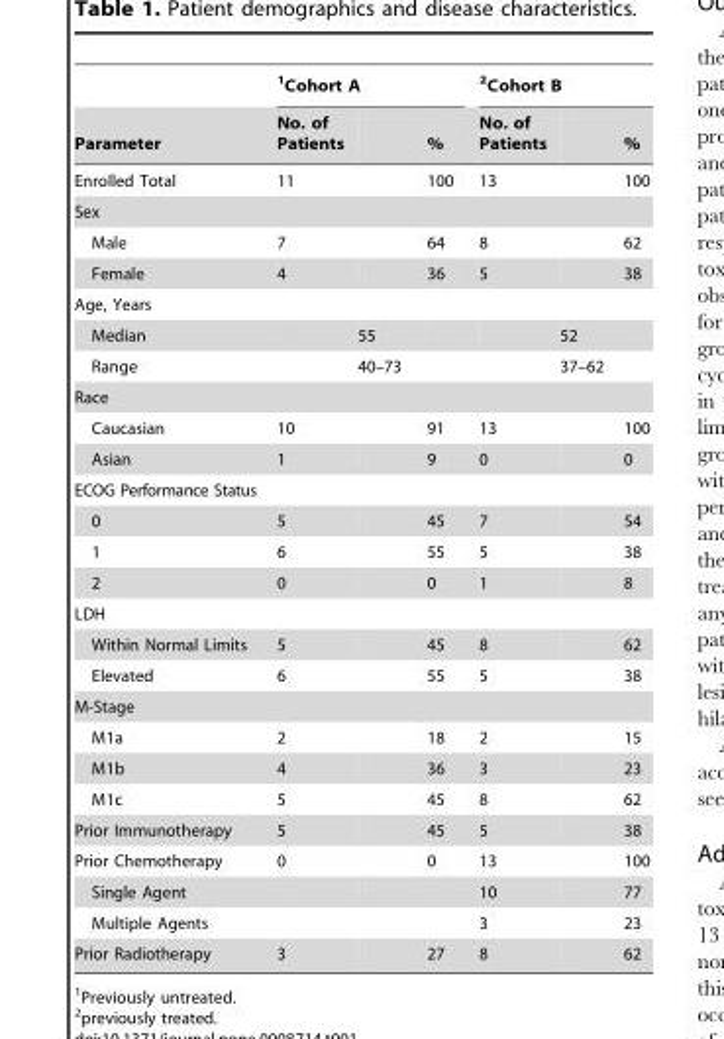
<table><thead><tr><td rowspan="2">Parameter</td><td colspan="3">1Cohort A</td><td colspan="3">2Cohort B</td></tr><tr><td>No. of Patients</td><td></td><td>%</td><td>No. of Patients</td><td></td><td>%</td></tr></thead><tbody><tr><td>Enrolled Total</td><td>11</td><td></td><td>100</td><td>13</td><td></td><td>100</td></tr><tr><td colspan="7">Sex</td></tr><tr><td>Male</td><td>7</td><td></td><td>64</td><td>8</td><td></td><td>62</td></tr><tr><td>Female</td><td>4</td><td></td><td>36</td><td>5</td><td></td><td>38</td></tr><tr><td colspan="7">Age, Years</td></tr><tr><td>Median</td><td></td><td>55</td><td></td><td></td><td>52</td><td></td></tr><tr><td>Range</td><td></td><td>40–73</td><td></td><td></td><td>37–62</td><td></td></tr><tr><td colspan="7">Race</td></tr><tr><td>Caucasian</td><td>10</td><td></td><td>91</td><td>13</td><td></td><td>100</td></tr><tr><td>Asian</td><td>1</td><td></td><td>9</td><td>0</td><td></td><td>0</td></tr><tr><td colspan="7">ECOG Performance Status</td></tr><tr><td>0</td><td>5</td><td></td><td>45</td><td>7</td><td></td><td>54</td></tr><tr><td>1</td><td>6</td><td></td><td>55</td><td>5</td><td></td><td>38</td></tr><tr><td>2</td><td>0</td><td></td><td>0</td><td>1</td><td></td><td>8</td></tr><tr><td colspan="7">LDH</td></tr><tr><td>Within Normal Limits</td><td>5</td><td></td><td>45</td><td>8</td><td></td><td>62</td></tr><tr><td>Elevated</td><td>6</td><td></td><td>55</td><td>5</td><td></td><td>38</td></tr><tr><td colspan="7">M-Stage</td></tr><tr><td>M1a</td><td>2</td><td></td><td>18</td><td>2</td><td></td><td>15</td></tr><tr><td>M1b</td><td>4</td><td></td><td>36</td><td>3</td><td></td><td>23</td></tr><tr><td>M1c</td><td>5</td><td></td><td>45</td><td>8</td><td></td><td>62</td></tr><tr><td>Prior Immunotherapy</td><td>5</td><td></td><td>45</td><td>5</td><td></td><td>38</td></tr><tr><td>Prior Chemotherapy</td><td>0</td><td></td><td>0</td><td>13</td><td></td><td>100</td></tr><tr><td>Single Agent</td><td></td><td></td><td></td><td>10</td><td></td><td>77</td></tr><tr><td>Multiple Agents</td><td></td><td></td><td></td><td>3</td><td></td><td>23</td></tr><tr><td>Prior Radiotherapy</td><td>3</td><td></td><td>27</td><td>8</td><td></td><td>62</td></tr></tbody></table>